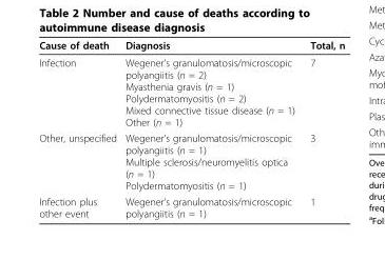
<table><thead><tr><td>Cause of death</td><td>Diagnosis</td><td>Total, n</td></tr></thead><tbody><tr><td>Infection</td><td>Wegener’s granulomatosis/microscopic polyangiitis (n = 2) Myasthenia gravis (n = 1) Polydermatomyositis (n = 2) Mixed connective tissue disease (n = 1) Other (n = 1)</td><td>7</td></tr><tr><td>Other, unspecified</td><td>Wegener’s granulomatosis/microscopic polyangiitis (n = 1) Multiple sclerosis/neuromyelitis optica (n = 1) Polydermatomyositis (n = 1)</td><td>3</td></tr><tr><td>Infection plus other event</td><td>Wegener’s granulomatosis/microscopic polyangiitis (n = 1)</td><td>1</td></tr></tbody></table>